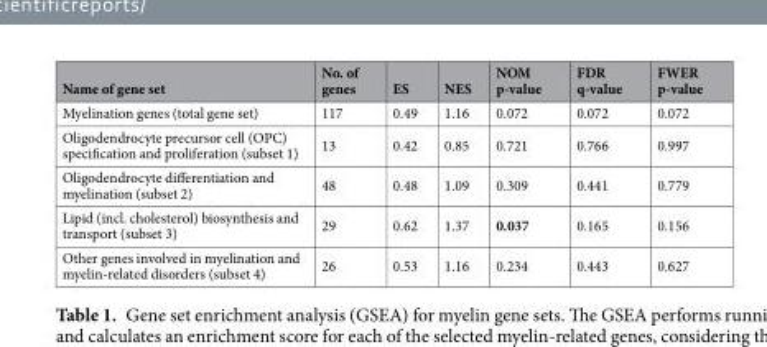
<table><thead><tr><td>Name of gene set</td><td>No. of genes</td><td>ES</td><td>NES</td><td>NOM p-value</td><td>FDR q-value</td><td>FWER p-value</td></tr></thead><tbody><tr><td>Myelination genes (total gene set)</td><td>117</td><td>0.49</td><td>1.16</td><td>0.072</td><td>0.072</td><td>0.072</td></tr><tr><td>Oligodendrocyte precursor cell (OPC) specification and proliferation (subset 1)</td><td>13</td><td>0.42</td><td>0.85</td><td>0.721</td><td>0.766</td><td>0.997</td></tr><tr><td>Oligodendrocyte differentiation and myelination (subset 2)</td><td>48</td><td>0.48</td><td>1.09</td><td>0.309</td><td>0.441</td><td>0.779</td></tr><tr><td>Lipid (incl. cholesterol) biosynthesis and transport (subset 3)</td><td>29</td><td>0.62</td><td>1.37</td><td>0.037</td><td>0.165</td><td>0.156</td></tr><tr><td>Other genes involved in myelination and myelin-related disorders (subset 4)</td><td>26</td><td>0.53</td><td>1.16</td><td>0.234</td><td>0.443</td><td>0.627</td></tr></tbody></table>